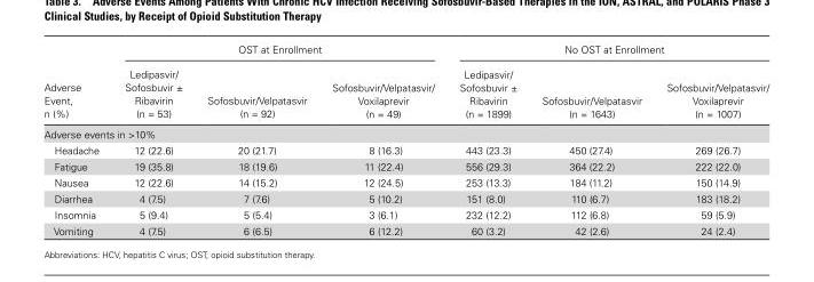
<table><thead><tr><td rowspan="2">Adverse Event, n (%)</td><td colspan="3">OST at Enrollment</td><td colspan="3">No OST at Enrollment</td></tr><tr><td>Ledipasvir/ Sofosbuvir ± Ribavirin (n = 53)</td><td>Sofosbuvir/Velpatasvir (n = 92)</td><td>Sofosbuvir/Velpatasvir/ Voxilaprevir (n = 49)</td><td>Ledipasvir/ Sofosbuvir ± Ribavirin (n = 1899)</td><td>Sofosbuvir/Velpatasvir (n = 1643)</td><td>Sofosbuvir/Velpatasvir/ Voxilaprevir (n = 1007)</td></tr></thead><tbody><tr><td colspan="7">Adverse events in &gt;10%</td></tr><tr><td>Headache</td><td>12 (22.6)</td><td>20 (21.7)</td><td>8 (16.3)</td><td>443 (23.3)</td><td>450 (27.4)</td><td>269 (26.7)</td></tr><tr><td>Fatigue</td><td>19 (35.8)</td><td>18 (19.6)</td><td>11 (22.4)</td><td>556 (29.3)</td><td>364 (22.2)</td><td>222 (22.0)</td></tr><tr><td>Nausea</td><td>12 (22.6)</td><td>14 (15.2)</td><td>12 (24.5)</td><td>253 (13.3)</td><td>184 (11.2)</td><td>150 (14.9)</td></tr><tr><td>Diarrhea</td><td>4 (7.5)</td><td>7 (7.6)</td><td>5 (10.2)</td><td>151 (8.0)</td><td>110 (6.7)</td><td>183 (18.2)</td></tr><tr><td>Insomnia</td><td>5 (9.4)</td><td>5 (5.4)</td><td>3 (6.1)</td><td>232 (12.2)</td><td>112 (6.8)</td><td>59 (5.9)</td></tr><tr><td>Vomiting</td><td>4 (7.5)</td><td>6 (6.5)</td><td>6 (12.2)</td><td>60 (3.2)</td><td>42 (2.6)</td><td>24 (2.4)</td></tr></tbody></table>